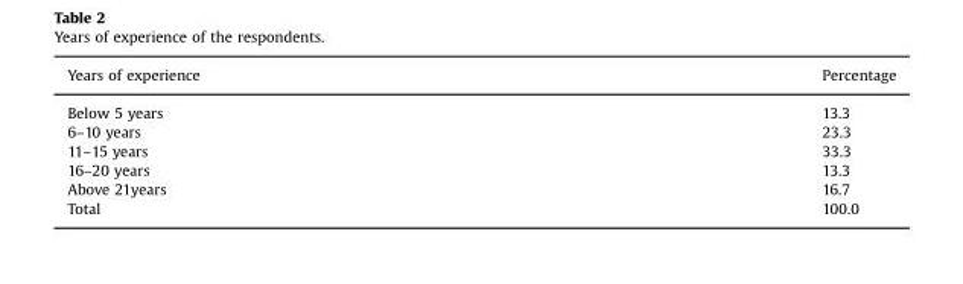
<table><thead><tr><td>Years of experience</td><td>Percentage</td></tr></thead><tbody><tr><td>Below 5 years</td><td>13.3</td></tr><tr><td>6–10 years</td><td>23.3</td></tr><tr><td>11–15 years</td><td>33.3</td></tr><tr><td>16–20 years</td><td>13.3</td></tr><tr><td>Above 21years</td><td>16.7</td></tr><tr><td>Total</td><td>100.0</td></tr></tbody></table>